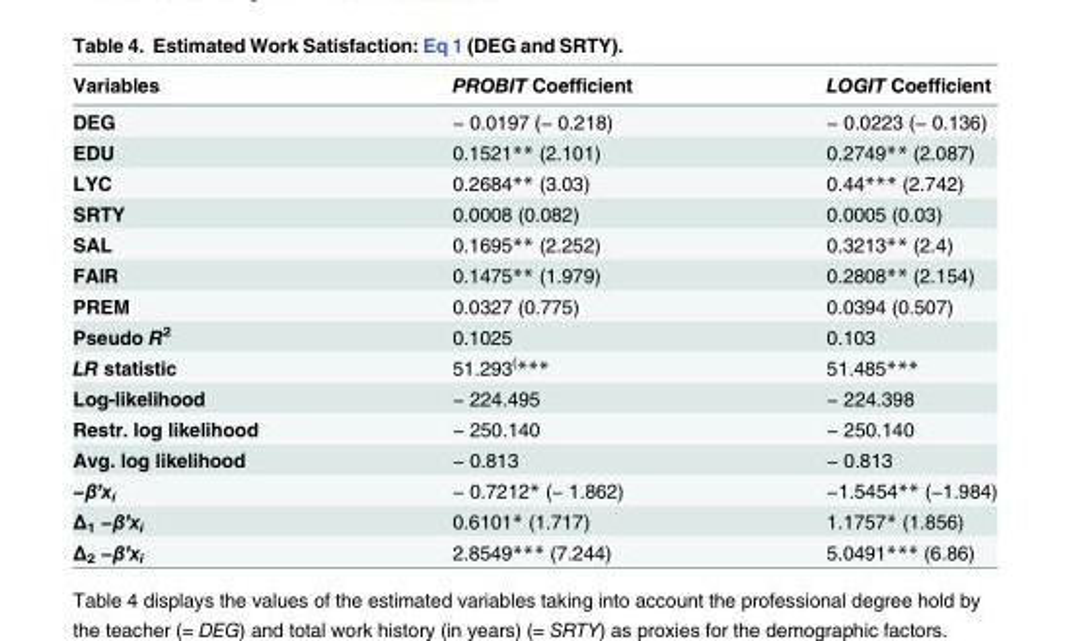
<table><thead><tr><td>Variables</td><td>PROBIT Coefficient</td><td>LOGIT Coefficient</td></tr></thead><tbody><tr><td>DEG</td><td>− 0.0197 (− 0.218)</td><td>− 0.0223 (− 0.136)</td></tr><tr><td>EDU</td><td>0.1521** (2.101)</td><td>0.2749** (2.087)</td></tr><tr><td>LYC</td><td>0.2684** (3.03)</td><td>0.44*** (2.742)</td></tr><tr><td>SRTY</td><td>0.0008 (0.082)</td><td>0.0005 (0.03)</td></tr><tr><td>SAL</td><td>0.1695** (2.252)</td><td>0.3213** (2.4)</td></tr><tr><td>FAIR</td><td>0.1475** (1.979)</td><td>0.2808** (2.154)</td></tr><tr><td>PREM</td><td>0.0327 (0.775)</td><td>0.0394 (0.507)</td></tr><tr><td>Pseudo R<sup>2</sup></td><td>0.1025</td><td>0.103</td></tr><tr><td>LR statistic</td><td>51.293<sup>(</sup>***</td><td>51.485***</td></tr><tr><td>Log-likelihood</td><td>− 224.495</td><td>− 224.398</td></tr><tr><td>Restr. log likelihood</td><td>− 250.140</td><td>− 250.140</td></tr><tr><td>Avg. log likelihood</td><td>− 0.813</td><td>− 0.813</td></tr><tr><td>−β’x<sub>i</sub></td><td>− 0.7212* (− 1.862)</td><td>−1.5454** (−1.984)</td></tr><tr><td>Δ<sub>1</sub> −β’x<sub>i</sub></td><td>0.6101* (1.717)</td><td>1.1757* (1.856)</td></tr><tr><td>Δ<sub>2</sub> −β’x<sub>i</sub></td><td>2.8549*** (7.244)</td><td>5.0491*** (6.86)</td></tr></tbody></table>